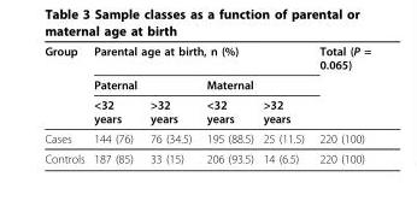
<table><thead><tr><td rowspan="3">Group</td><td colspan="4">Parental age at birth, n (%)</td><td rowspan="3">Total (P = 0.065)</td></tr><tr><td colspan="2">Paternal</td><td colspan="2">Maternal</td></tr><tr><td>&lt;32 years</td><td>&gt;32 years</td><td>&lt;32 years</td><td>&gt;32 years</td></tr></thead><tbody><tr><td>Cases</td><td>144 (76)</td><td>76 (34.5)</td><td>195 (88.5)</td><td>25 (11.5)</td><td>220 (100)</td></tr><tr><td>Controls</td><td>187 (85)</td><td>33 (15)</td><td>206 (93.5)</td><td>14 (6.5)</td><td>220 (100)</td></tr></tbody></table>